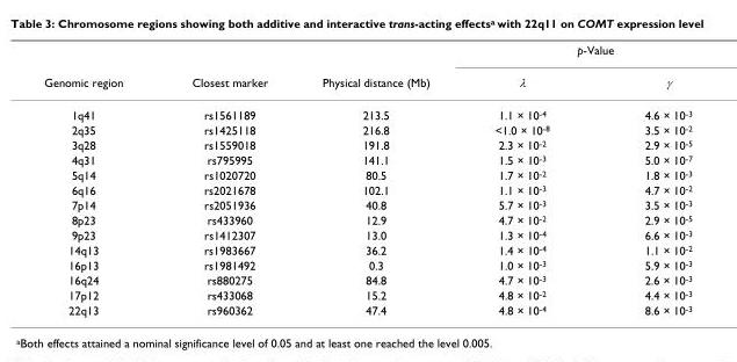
<table><thead><tr><td rowspan="2">Genomic region</td><td rowspan="2">Closest marker</td><td rowspan="2">Physical distance (Mb)</td><td colspan="2">p-Value</td></tr><tr><td>λ</td><td>γ</td></tr></thead><tbody><tr><td>1q41</td><td>rs1561189</td><td>213.5</td><td>1.1 × 10<sup>-4</sup></td><td>4.6 × 10<sup>-3</sup></td></tr><tr><td>2q35</td><td>rs1425118</td><td>216.8</td><td>&lt;1.0 × 10<sup>-8</sup></td><td>3.5 × 10<sup>-2</sup></td></tr><tr><td>3q28</td><td>rs1559018</td><td>191.8</td><td>2.3 × 10<sup>-2</sup></td><td>2.9 × 10<sup>-5</sup></td></tr><tr><td>4q31</td><td>rs795995</td><td>141.1</td><td>1.5 × 10<sup>-3</sup></td><td>5.0 × 10<sup>-7</sup></td></tr><tr><td>5q14</td><td>rs1020720</td><td>80.5</td><td>1.7 × 10<sup>-2</sup></td><td>1.8 × 10<sup>-3</sup></td></tr><tr><td>6q16</td><td>rs2021678</td><td>102.1</td><td>1.1 × 10<sup>-3</sup></td><td>4.7 × 10<sup>-2</sup></td></tr><tr><td>7p14</td><td>rs2051936</td><td>40.8</td><td>5.7 × 10<sup>-3</sup></td><td>3.5 × 10<sup>-3</sup></td></tr><tr><td>8p23</td><td>rs433960</td><td>12.9</td><td>4.7 × 10<sup>-2</sup></td><td>2.9 × 10<sup>-5</sup></td></tr><tr><td>9p23</td><td>rs1412307</td><td>13.0</td><td>1.3 × 10<sup>-4</sup></td><td>6.6 × 10<sup>-3</sup></td></tr><tr><td>14q13</td><td>rs1983667</td><td>36.2</td><td>1.4 × 10<sup>-4</sup></td><td>1.1 × 10<sup>-2</sup></td></tr><tr><td>16p13</td><td>rs1981492</td><td>0.3</td><td>1.0 × 10<sup>-3</sup></td><td>5.9 × 10<sup>-3</sup></td></tr><tr><td>16q24</td><td>rs880275</td><td>84.8</td><td>4.7 × 10<sup>-3</sup></td><td>2.6 × 10<sup>-3</sup></td></tr><tr><td>17p12</td><td>rs433068</td><td>15.2</td><td>4.8 × 10<sup>-2</sup></td><td>4.4 × 10<sup>-3</sup></td></tr><tr><td>22q13</td><td>rs960362</td><td>47.4</td><td>4.8 × 10<sup>-4</sup></td><td>8.6 × 10<sup>-3</sup></td></tr></tbody></table>